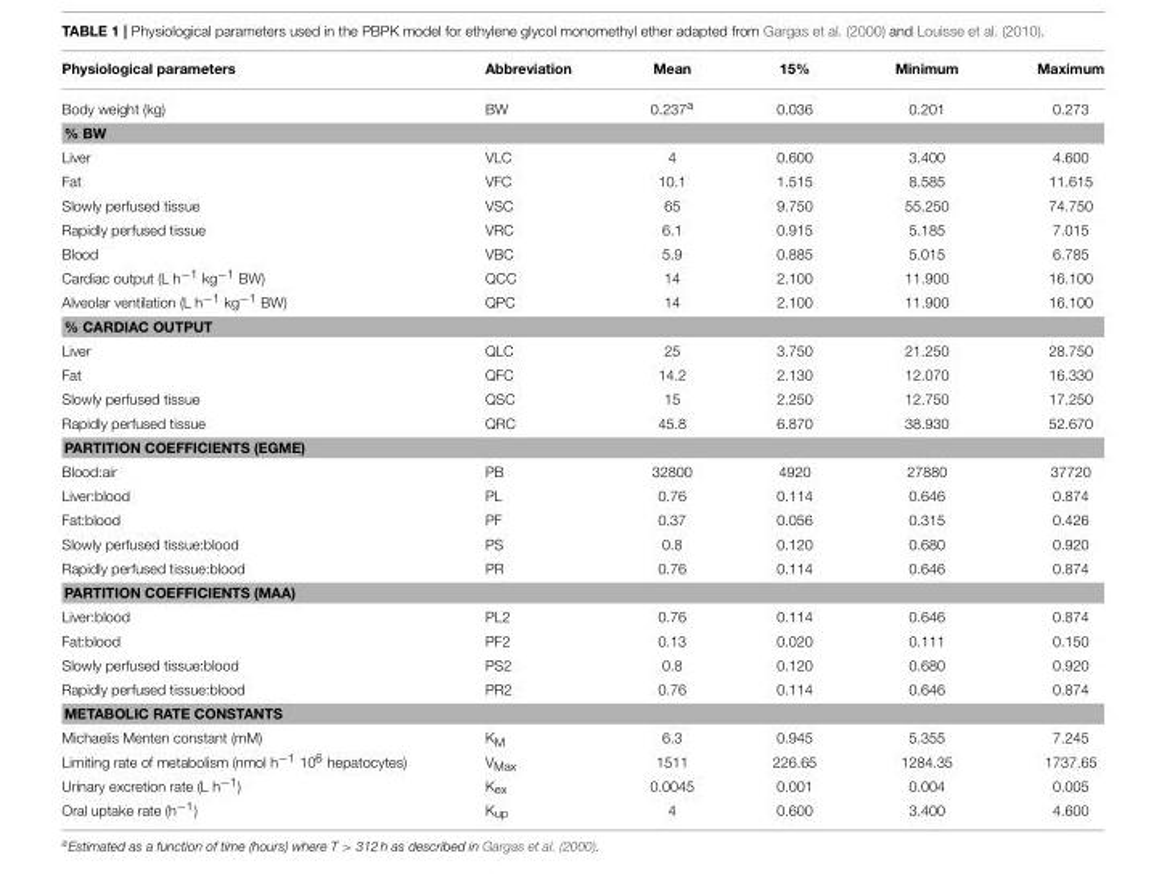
<table><thead><tr><td>Physiological parameters</td><td>Abbreviation</td><td>Mean</td><td>15%</td><td>Minimum</td><td>Maximum</td></tr></thead><tbody><tr><td>Body weight (kg)</td><td>BW</td><td>0.237<sup>a</sup></td><td>0.036</td><td>0.201</td><td>0.273</td></tr><tr><td colspan="6">% BW</td></tr><tr><td>Liver</td><td>VLC</td><td>4</td><td>0.600</td><td>3.400</td><td>4.600</td></tr><tr><td>Fat</td><td>VFC</td><td>10.1</td><td>1.515</td><td>8.585</td><td>11.615</td></tr><tr><td>Slowly perfused tissue</td><td>VSC</td><td>65</td><td>9.750</td><td>55.250</td><td>74.750</td></tr><tr><td>Rapidly perfused tissue</td><td>VRC</td><td>6.1</td><td>0.915</td><td>5.185</td><td>7.015</td></tr><tr><td>Blood</td><td>VBC</td><td>5.9</td><td>0.885</td><td>5.015</td><td>6.785</td></tr><tr><td>Cardiac output (L h<sup>−1</sup> kg<sup>−1</sup> BW)</td><td>QCC</td><td>14</td><td>2.100</td><td>11.900</td><td>16.100</td></tr><tr><td>Alveolar ventilation (L h<sup>−1</sup> kg<sup>−1</sup> BW)</td><td>QPC</td><td>14</td><td>2.100</td><td>11.900</td><td>16.100</td></tr><tr><td colspan="6">% CARDIAC OUTPUT</td></tr><tr><td>Liver</td><td>QLC</td><td>25</td><td>3.750</td><td>21.250</td><td>28.750</td></tr><tr><td>Fat</td><td>QFC</td><td>14.2</td><td>2.130</td><td>12.070</td><td>16.330</td></tr><tr><td>Slowly perfused tissue</td><td>QSC</td><td>15</td><td>2.250</td><td>12.750</td><td>17.250</td></tr><tr><td>Rapidly perfused tissue</td><td>QRC</td><td>45.8</td><td>6.870</td><td>38.930</td><td>52.670</td></tr><tr><td colspan="6">PARTITION COEFFICIENTS (EGME)</td></tr><tr><td>Blood:air</td><td>PB</td><td>32800</td><td>4920</td><td>27880</td><td>37720</td></tr><tr><td>Liver:blood</td><td>PL</td><td>0.76</td><td>0.114</td><td>0.646</td><td>0.874</td></tr><tr><td>Fat:blood</td><td>PF</td><td>0.37</td><td>0.056</td><td>0.315</td><td>0.426</td></tr><tr><td>Slowly perfused tissue:blood</td><td>PS</td><td>0.8</td><td>0.120</td><td>0.680</td><td>0.920</td></tr><tr><td>Rapidly perfused tissue:blood</td><td>PR</td><td>0.76</td><td>0.114</td><td>0.646</td><td>0.874</td></tr><tr><td colspan="6">PARTITION COEFFICIENTS (MAA)</td></tr><tr><td>Liver:blood</td><td>PL2</td><td>0.76</td><td>0.114</td><td>0.646</td><td>0.874</td></tr><tr><td>Fat:blood</td><td>PF2</td><td>0.13</td><td>0.020</td><td>0.111</td><td>0.150</td></tr><tr><td>Slowly perfused tissue:blood</td><td>PS2</td><td>0.8</td><td>0.120</td><td>0.680</td><td>0.920</td></tr><tr><td>Rapidly perfused tissue:blood</td><td>PR2</td><td>0.76</td><td>0.114</td><td>0.646</td><td>0.874</td></tr><tr><td colspan="6">METABOLIC RATE CONSTANTS</td></tr><tr><td>Michaelis Menten constant (mM)</td><td>K<sub>M</sub></td><td>6.3</td><td>0.945</td><td>5.355</td><td>7.245</td></tr><tr><td>Limiting rate of metabolism (nmol h<sup>−1</sup> 10<sup>6</sup> hepatocytes)</td><td>V<sub>Max</sub></td><td>1511</td><td>226.65</td><td>1284.35</td><td>1737.65</td></tr><tr><td>Urinary excretion rate (L h<sup>−1</sup>)</td><td>K<sub>ex</sub></td><td>0.0045</td><td>0.001</td><td>0.004</td><td>0.005</td></tr><tr><td>Oral uptake rate (h<sup>−1</sup>)</td><td>K<sub>up</sub></td><td>4</td><td>0.600</td><td>3.400</td><td>4.600</td></tr></tbody></table>